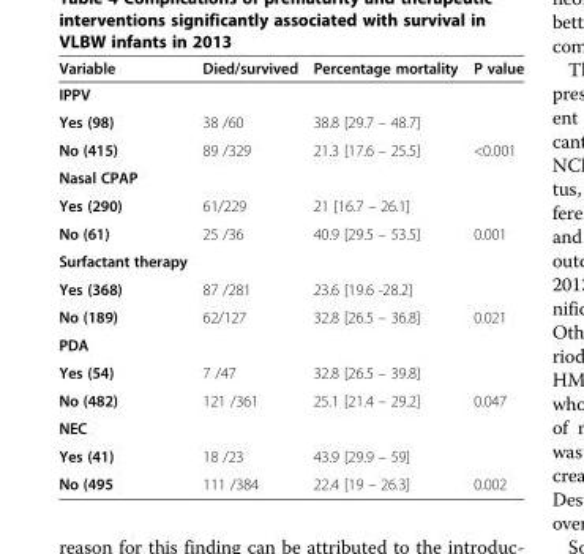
<table><thead><tr><td>Variable</td><td>Died/survived</td><td>Percentage mortality</td><td>P value</td></tr></thead><tbody><tr><td colspan="4">IPPV</td></tr><tr><td>Yes (98)</td><td>38 /60</td><td>38.8 [29.7 – 48.7]</td><td></td></tr><tr><td>No (415)</td><td>89 /329</td><td>21.3 [17.6 – 25.5]</td><td>&lt;0.001</td></tr><tr><td colspan="4">Nasal CPAP</td></tr><tr><td>Yes (290)</td><td>61/229</td><td>21 [16.7 – 26.1]</td><td></td></tr><tr><td>No (61)</td><td>25 /36</td><td>40.9 [29.5 – 53.5]</td><td>0.001</td></tr><tr><td colspan="4">Surfactant therapy</td></tr><tr><td>Yes (368)</td><td>87 /281</td><td>23.6 [19.6 -28.2]</td><td></td></tr><tr><td>No (189)</td><td>62/127</td><td>32.8 [26.5 – 36.8]</td><td>0.021</td></tr><tr><td colspan="4">PDA</td></tr><tr><td>Yes (54)</td><td>7 /47</td><td>32.8 [26.5 – 39.8]</td><td></td></tr><tr><td>No (482)</td><td>121 /361</td><td>25.1 [21.4 – 29.2]</td><td>0.047</td></tr><tr><td colspan="4">NEC</td></tr><tr><td>Yes (41)</td><td>18 /23</td><td>43.9 [29.9 – 59]</td><td></td></tr><tr><td>No (495</td><td>111 /384</td><td>22.4 [19 – 26.3]</td><td>0.002</td></tr></tbody></table>